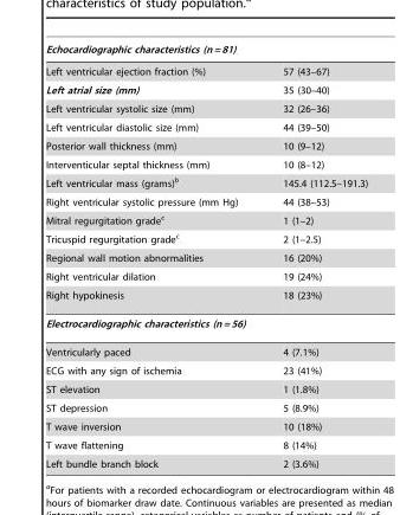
<table><thead><tr><td colspan="2">Echocardiographic characteristics (n = 81)</td></tr><tr><td>Left ventricular ejection fraction (%)</td><td>57 (43–67)</td></tr></thead><tbody><tr><td>Left atrial size (mm)</td><td>35 (30–40)</td></tr><tr><td>Left ventricular systolic size (mm)</td><td>32 (26–36)</td></tr><tr><td>Left ventricular diastolic size (mm)</td><td>44 (39–50)</td></tr><tr><td>Posterior wall thickness (mm)</td><td>10 (9–12)</td></tr><tr><td>Interventicular septal thickness (mm)</td><td>10 (8–12)</td></tr><tr><td>Left ventricular mass (grams)<sup>b</sup></td><td>145.4 (112.5–191.3)</td></tr><tr><td>Right ventricular systolic pressure (mm Hg)</td><td>44 (38–53)</td></tr><tr><td>Mitral regurgitation grade<sup>c</sup></td><td>1 (1–2)</td></tr><tr><td>Tricuspid regurgitation grade<sup>c</sup></td><td>2 (1–2.5)</td></tr><tr><td>Regional wall motion abnormalities</td><td>16 (20%)</td></tr><tr><td>Right ventricular dilation</td><td>19 (24%)</td></tr><tr><td>Right hypokinesis</td><td>18 (23%)</td></tr><tr><td colspan="2">Electrocardiographic characteristics (n = 56)</td></tr><tr><td>Ventricularly paced</td><td>4 (7.1%)</td></tr><tr><td>ECG with any sign of ischemia</td><td>23 (41%)</td></tr><tr><td>ST elevation</td><td>1 (1.8%)</td></tr><tr><td>ST depression</td><td>5 (8.9%)</td></tr><tr><td>T wave inversion</td><td>10 (18%)</td></tr><tr><td>T wave flattening</td><td>8 (14%)</td></tr><tr><td>Left bundle branch block</td><td>2 (3.6%)</td></tr></tbody></table>